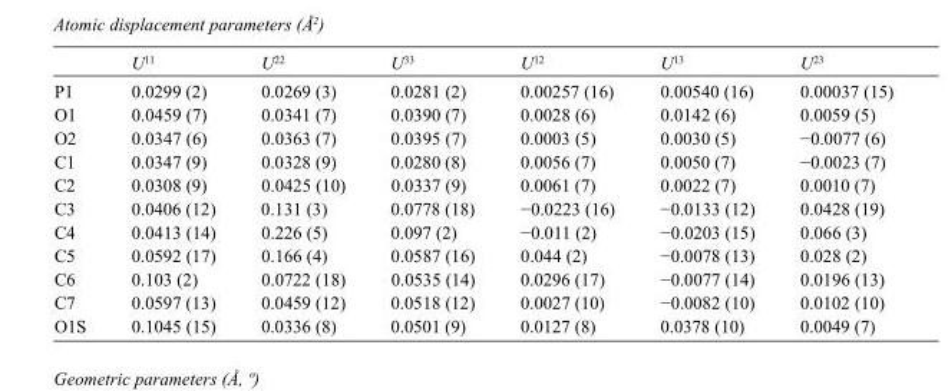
<table><thead><tr><td></td><td>U<sup>11</sup></td><td>U<sup>22</sup></td><td>U<sup>33</sup></td><td>U<sup>12</sup></td><td>U<sup>13</sup></td><td>U<sup>23</sup></td></tr></thead><tbody><tr><td>P1</td><td>0.0299 (2)</td><td>0.0269 (3)</td><td>0.0281 (2)</td><td>0.00257 (16)</td><td>0.00540 (16)</td><td>0.00037 (15)</td></tr><tr><td>O1</td><td>0.0459 (7)</td><td>0.0341 (7)</td><td>0.0390 (7)</td><td>0.0028 (6)</td><td>0.0142 (6)</td><td>0.0059 (5)</td></tr><tr><td>O2</td><td>0.0347 (6)</td><td>0.0363 (7)</td><td>0.0395 (7)</td><td>0.0003 (5)</td><td>0.0030 (5)</td><td>−0.0077 (6)</td></tr><tr><td>C1</td><td>0.0347 (9)</td><td>0.0328 (9)</td><td>0.0280 (8)</td><td>0.0056 (7)</td><td>0.0050 (7)</td><td>−0.0023 (7)</td></tr><tr><td>C2</td><td>0.0308 (9)</td><td>0.0425 (10)</td><td>0.0337 (9)</td><td>0.0061 (7)</td><td>0.0022 (7)</td><td>0.0010 (7)</td></tr><tr><td>C3</td><td>0.0406 (12)</td><td>0.131 (3)</td><td>0.0778 (18)</td><td>−0.0223 (16)</td><td>−0.0133 (12)</td><td>0.0428 (19)</td></tr><tr><td>C4</td><td>0.0413 (14)</td><td>0.226 (5)</td><td>0.097 (2)</td><td>−0.011 (2)</td><td>−0.0203 (15)</td><td>0.066 (3)</td></tr><tr><td>C5</td><td>0.0592 (17)</td><td>0.166 (4)</td><td>0.0587 (16)</td><td>0.044 (2)</td><td>−0.0078 (13)</td><td>0.028 (2)</td></tr><tr><td>C6</td><td>0.103 (2)</td><td>0.0722 (18)</td><td>0.0535 (14)</td><td>0.0296 (17)</td><td>−0.0077 (14)</td><td>0.0196 (13)</td></tr><tr><td>C7</td><td>0.0597 (13)</td><td>0.0459 (12)</td><td>0.0518 (12)</td><td>0.0027 (10)</td><td>−0.0082 (10)</td><td>0.0102 (10)</td></tr><tr><td>O1S</td><td>0.1045 (15)</td><td>0.0336 (8)</td><td>0.0501 (9)</td><td>0.0127 (8)</td><td>0.0378 (10)</td><td>0.0049 (7)</td></tr></tbody></table>